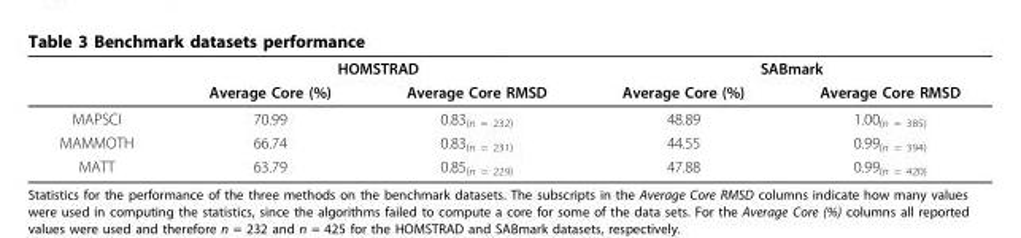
<table><thead><tr><td rowspan="2"></td><td colspan="2">HOMSTRAD</td><td colspan="2">SABmark</td></tr><tr><td>Average Core (%)</td><td>Average Core RMSD</td><td>Average Core (%)</td><td>Average Core RMSD</td></tr></thead><tbody><tr><td>MAPSCI</td><td>70.99</td><td>0.83<sub>(n = 232)</sub></td><td>48.89</td><td>1.00<sub>(n = 385)</sub></td></tr><tr><td>MAMMOTH</td><td>66.74</td><td>0.83<sub>(n = 231)</sub></td><td>44.55</td><td>0.99<sub>(n = 394)</sub></td></tr><tr><td>MATT</td><td>63.79</td><td>0.85<sub>(n = 229)</sub></td><td>47.88</td><td>0.99<sub>(n = 420)</sub></td></tr></tbody></table>